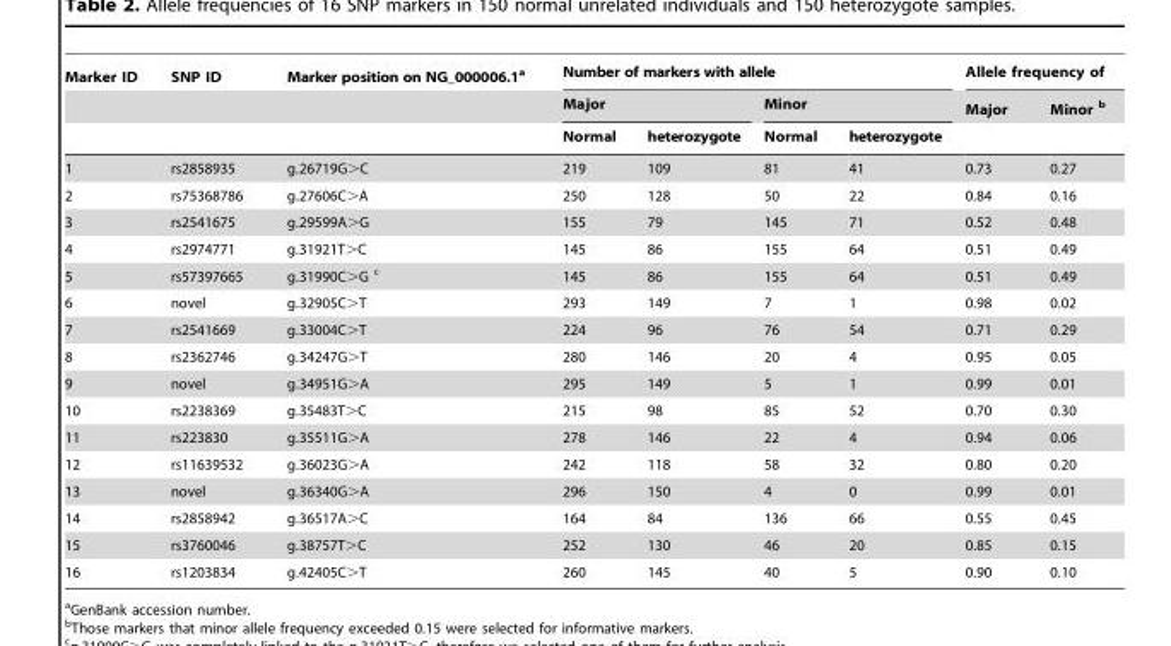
<table><thead><tr><td rowspan="3">Marker ID</td><td rowspan="3">SNP ID</td><td rowspan="3">Marker position on NG_000006.1<sup>a</sup></td><td colspan="4">Number of markers with allele</td><td colspan="2">Allele frequency of</td></tr><tr><td colspan="2">Major</td><td colspan="2">Minor</td><td rowspan="2">Major</td><td rowspan="2">Minor b</td></tr><tr><td>Normal</td><td>heterozygote</td><td>Normal</td><td>heterozygote</td></tr></thead><tbody><tr><td>1</td><td>rs2858935</td><td>g.26719G&gt;C</td><td>219</td><td>109</td><td>81</td><td>41</td><td>0.73</td><td>0.27</td></tr><tr><td>2</td><td>rs75368786</td><td>g.27606C&gt;A</td><td>250</td><td>128</td><td>50</td><td>22</td><td>0.84</td><td>0.16</td></tr><tr><td>3</td><td>rs2541675</td><td>g.29599A&gt;G</td><td>155</td><td>79</td><td>145</td><td>71</td><td>0.52</td><td>0.48</td></tr><tr><td>4</td><td>rs2974771</td><td>g.31921T&gt;C</td><td>145</td><td>86</td><td>155</td><td>64</td><td>0.51</td><td>0.49</td></tr><tr><td>5</td><td>rs57397665</td><td>g.31990C&gt;G c</td><td>145</td><td>86</td><td>155</td><td>64</td><td>0.51</td><td>0.49</td></tr><tr><td>6</td><td>novel</td><td>g.32905C&gt;T</td><td>293</td><td>149</td><td>7</td><td>1</td><td>0.98</td><td>0.02</td></tr><tr><td>7</td><td>rs2541669</td><td>g.33004C&gt;T</td><td>224</td><td>96</td><td>76</td><td>54</td><td>0.71</td><td>0.29</td></tr><tr><td>8</td><td>rs2362746</td><td>g.34247G&gt;T</td><td>280</td><td>146</td><td>20</td><td>4</td><td>0.95</td><td>0.05</td></tr><tr><td>9</td><td>novel</td><td>g.34951G&gt;A</td><td>295</td><td>149</td><td>5</td><td>1</td><td>0.99</td><td>0.01</td></tr><tr><td>10</td><td>rs2238369</td><td>g.35483T&gt;C</td><td>215</td><td>98</td><td>85</td><td>52</td><td>0.70</td><td>0.30</td></tr><tr><td>11</td><td>rs223830</td><td>g.35511G&gt;A</td><td>278</td><td>146</td><td>22</td><td>4</td><td>0.94</td><td>0.06</td></tr><tr><td>12</td><td>rs11639532</td><td>g.36023G&gt;A</td><td>242</td><td>118</td><td>58</td><td>32</td><td>0.80</td><td>0.20</td></tr><tr><td>13</td><td>novel</td><td>g.36340G&gt;A</td><td>296</td><td>150</td><td>4</td><td>0</td><td>0.99</td><td>0.01</td></tr><tr><td>14</td><td>rs2858942</td><td>g.36517A&gt;C</td><td>164</td><td>84</td><td>136</td><td>66</td><td>0.55</td><td>0.45</td></tr><tr><td>15</td><td>rs3760046</td><td>g.38757T&gt;C</td><td>252</td><td>130</td><td>46</td><td>20</td><td>0.85</td><td>0.15</td></tr><tr><td>16</td><td>rs1203834</td><td>g.42405C&gt;T</td><td>260</td><td>145</td><td>40</td><td>5</td><td>0.90</td><td>0.10</td></tr></tbody></table>